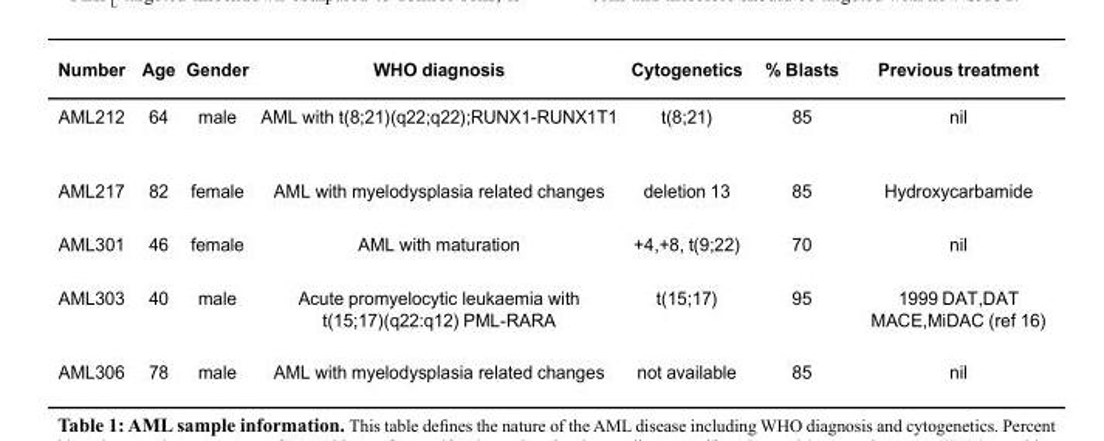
<table><thead><tr><td>Number</td><td>Age</td><td>Gender</td><td>WHO diagnosis</td><td>Cytogenetics</td><td>% Blasts</td><td>Previous treatment</td></tr></thead><tbody><tr><td>AML212</td><td>64</td><td>male</td><td>AML with t(8;21)(q22;q22);RUNX1-RUNX1T1</td><td>t(8;21)</td><td>85</td><td>nil</td></tr><tr><td>AML217</td><td>82</td><td>female</td><td>AML with myelodysplasia related changes</td><td>deletion 13</td><td>85</td><td>Hydroxycarbamide</td></tr><tr><td>AML301</td><td>46</td><td>female</td><td>AML with maturation</td><td>+4,+8, t(9;22)</td><td>70</td><td>nil</td></tr><tr><td>AML303</td><td>40</td><td>male</td><td>Acute promyelocytic leukaemia with t(15;17)(q22:q12) PML-RARA</td><td>t(15;17)</td><td>95</td><td>1999 DAT,DAT MACE,MiDAC (ref 16)</td></tr><tr><td>AML306</td><td>78</td><td>male</td><td>AML with myelodysplasia related changes</td><td>not available</td><td>85</td><td>nil</td></tr></tbody></table>